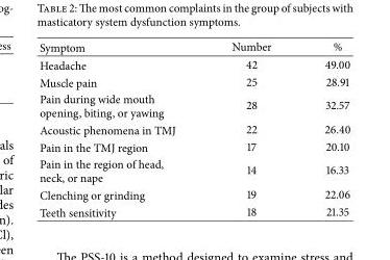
<table><thead><tr><td>Symptom</td><td>Number</td><td>%</td></tr></thead><tbody><tr><td>Headache</td><td>42</td><td>49.00</td></tr><tr><td>Muscle pain</td><td>25</td><td>28.91</td></tr><tr><td>Pain during wide mouth opening, biting, or yawing</td><td>28</td><td>32.57</td></tr><tr><td>Acoustic phenomena in TMJ</td><td>22</td><td>26.40</td></tr><tr><td>Pain in the TMJ region</td><td>17</td><td>20.10</td></tr><tr><td>Pain in the region of head, neck, or nape</td><td>14</td><td>16.33</td></tr><tr><td>Clenching or grinding</td><td>19</td><td>22.06</td></tr><tr><td>Teeth sensitivity</td><td>18</td><td>21.35</td></tr></tbody></table>